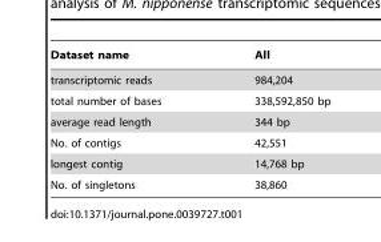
<table><thead><tr><td>Dataset name</td><td>All</td></tr></thead><tbody><tr><td>transcriptomic reads</td><td>984,204</td></tr><tr><td>total number of bases</td><td>338,592,850 bp</td></tr><tr><td>average read length</td><td>344 bp</td></tr><tr><td>No. of contigs</td><td>42,551</td></tr><tr><td>longest contig</td><td>14,768 bp</td></tr><tr><td>No. of singletons</td><td>38,860</td></tr></tbody></table>